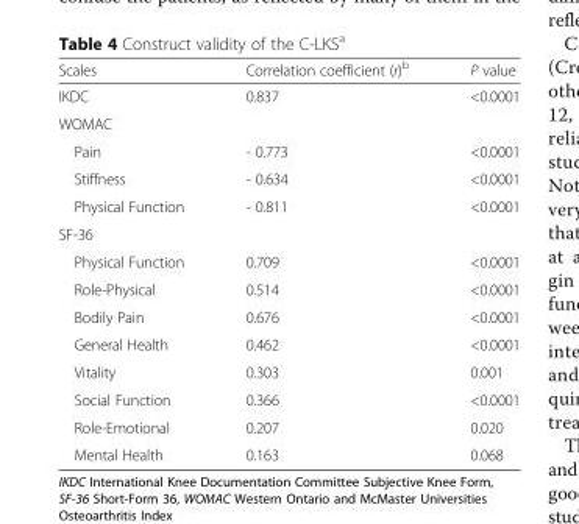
<table><thead><tr><td>Scales</td><td>Correlation coefficient (r)<sup>b</sup></td><td>P value</td></tr></thead><tbody><tr><td>IKDC</td><td>0.837</td><td>&lt;0.0001</td></tr><tr><td colspan="3">WOMAC</td></tr><tr><td>Pain</td><td>- 0.773</td><td>&lt;0.0001</td></tr><tr><td>Stiffness</td><td>- 0.634</td><td>&lt;0.0001</td></tr><tr><td>Physical Function</td><td>- 0.811</td><td>&lt;0.0001</td></tr><tr><td colspan="3">SF-36</td></tr><tr><td>Physical Function</td><td>0.709</td><td>&lt;0.0001</td></tr><tr><td>Role-Physical</td><td>0.514</td><td>&lt;0.0001</td></tr><tr><td>Bodily Pain</td><td>0.676</td><td>&lt;0.0001</td></tr><tr><td>General Health</td><td>0.462</td><td>&lt;0.0001</td></tr><tr><td>Vitality</td><td>0.303</td><td>0.001</td></tr><tr><td>Social Function</td><td>0.366</td><td>&lt;0.0001</td></tr><tr><td>Role-Emotional</td><td>0.207</td><td>0.020</td></tr><tr><td>Mental Health</td><td>0.163</td><td>0.068</td></tr></tbody></table>